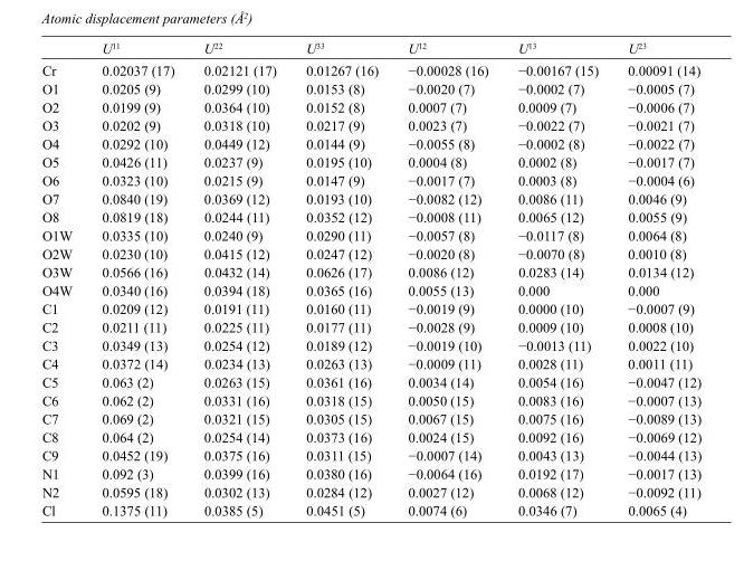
<table><thead><tr><td></td><td>U<sup>11</sup></td><td>U<sup>22</sup></td><td>U<sup>33</sup></td><td>U<sup>12</sup></td><td>U<sup>13</sup></td><td>U<sup>23</sup></td></tr></thead><tbody><tr><td>Cr</td><td>0.02037 (17)</td><td>0.02121 (17)</td><td>0.01267 (16)</td><td>−0.00028 (16)</td><td>−0.00167 (15)</td><td>0.00091 (14)</td></tr><tr><td>O1</td><td>0.0205 (9)</td><td>0.0299 (10)</td><td>0.0153 (8)</td><td>−0.0020 (7)</td><td>−0.0002 (7)</td><td>−0.0005 (7)</td></tr><tr><td>O2</td><td>0.0199 (9)</td><td>0.0364 (10)</td><td>0.0152 (8)</td><td>0.0007 (7)</td><td>0.0009 (7)</td><td>−0.0006 (7)</td></tr><tr><td>O3</td><td>0.0202 (9)</td><td>0.0318 (10)</td><td>0.0217 (9)</td><td>0.0023 (7)</td><td>−0.0022 (7)</td><td>−0.0021 (7)</td></tr><tr><td>O4</td><td>0.0292 (10)</td><td>0.0449 (12)</td><td>0.0144 (9)</td><td>−0.0055 (8)</td><td>−0.0002 (8)</td><td>−0.0022 (7)</td></tr><tr><td>O5</td><td>0.0426 (11)</td><td>0.0237 (9)</td><td>0.0195 (10)</td><td>0.0004 (8)</td><td>0.0002 (8)</td><td>−0.0017 (7)</td></tr><tr><td>O6</td><td>0.0323 (10)</td><td>0.0215 (9)</td><td>0.0147 (9)</td><td>−0.0017 (7)</td><td>0.0003 (8)</td><td>−0.0004 (6)</td></tr><tr><td>O7</td><td>0.0840 (19)</td><td>0.0369 (12)</td><td>0.0193 (10)</td><td>−0.0082 (12)</td><td>0.0086 (11)</td><td>0.0046 (9)</td></tr><tr><td>O8</td><td>0.0819 (18)</td><td>0.0244 (11)</td><td>0.0352 (12)</td><td>−0.0008 (11)</td><td>0.0065 (12)</td><td>0.0055 (9)</td></tr><tr><td>O1W</td><td>0.0335 (10)</td><td>0.0240 (9)</td><td>0.0290 (11)</td><td>−0.0057 (8)</td><td>−0.0117 (8)</td><td>0.0064 (8)</td></tr><tr><td>O2W</td><td>0.0230 (10)</td><td>0.0415 (12)</td><td>0.0247 (12)</td><td>−0.0020 (8)</td><td>−0.0070 (8)</td><td>0.0010 (8)</td></tr><tr><td>O3W</td><td>0.0566 (16)</td><td>0.0432 (14)</td><td>0.0626 (17)</td><td>0.0086 (12)</td><td>0.0283 (14)</td><td>0.0134 (12)</td></tr><tr><td>O4W</td><td>0.0340 (16)</td><td>0.0394 (18)</td><td>0.0365 (16)</td><td>0.0055 (13)</td><td>0.000</td><td>0.000</td></tr><tr><td>C1</td><td>0.0209 (12)</td><td>0.0191 (11)</td><td>0.0160 (11)</td><td>−0.0019 (9)</td><td>0.0000 (10)</td><td>−0.0007 (9)</td></tr><tr><td>C2</td><td>0.0211 (11)</td><td>0.0225 (11)</td><td>0.0177 (11)</td><td>−0.0028 (9)</td><td>0.0009 (10)</td><td>0.0008 (10)</td></tr><tr><td>C3</td><td>0.0349 (13)</td><td>0.0254 (12)</td><td>0.0189 (12)</td><td>−0.0019 (10)</td><td>−0.0013 (11)</td><td>0.0022 (10)</td></tr><tr><td>C4</td><td>0.0372 (14)</td><td>0.0234 (13)</td><td>0.0263 (13)</td><td>−0.0009 (11)</td><td>0.0028 (11)</td><td>0.0011 (11)</td></tr><tr><td>C5</td><td>0.063 (2)</td><td>0.0263 (15)</td><td>0.0361 (16)</td><td>0.0034 (14)</td><td>0.0054 (16)</td><td>−0.0047 (12)</td></tr><tr><td>C6</td><td>0.062 (2)</td><td>0.0331 (16)</td><td>0.0318 (15)</td><td>0.0050 (15)</td><td>0.0083 (16)</td><td>−0.0007 (13)</td></tr><tr><td>C7</td><td>0.069 (2)</td><td>0.0321 (15)</td><td>0.0305 (15)</td><td>0.0067 (15)</td><td>0.0075 (16)</td><td>−0.0089 (13)</td></tr><tr><td>C8</td><td>0.064 (2)</td><td>0.0254 (14)</td><td>0.0373 (16)</td><td>0.0024 (15)</td><td>0.0092 (16)</td><td>−0.0069 (12)</td></tr><tr><td>C9</td><td>0.0452 (19)</td><td>0.0375 (16)</td><td>0.0311 (15)</td><td>−0.0007 (14)</td><td>0.0043 (13)</td><td>−0.0044 (13)</td></tr><tr><td>N1</td><td>0.092 (3)</td><td>0.0399 (16)</td><td>0.0380 (16)</td><td>−0.0064 (16)</td><td>0.0192 (17)</td><td>−0.0017 (13)</td></tr><tr><td>N2</td><td>0.0595 (18)</td><td>0.0302 (13)</td><td>0.0284 (12)</td><td>0.0027 (12)</td><td>0.0068 (12)</td><td>−0.0092 (11)</td></tr><tr><td>Cl</td><td>0.1375 (11)</td><td>0.0385 (5)</td><td>0.0451 (5)</td><td>0.0074 (6)</td><td>0.0346 (7)</td><td>0.0065 (4)</td></tr></tbody></table>